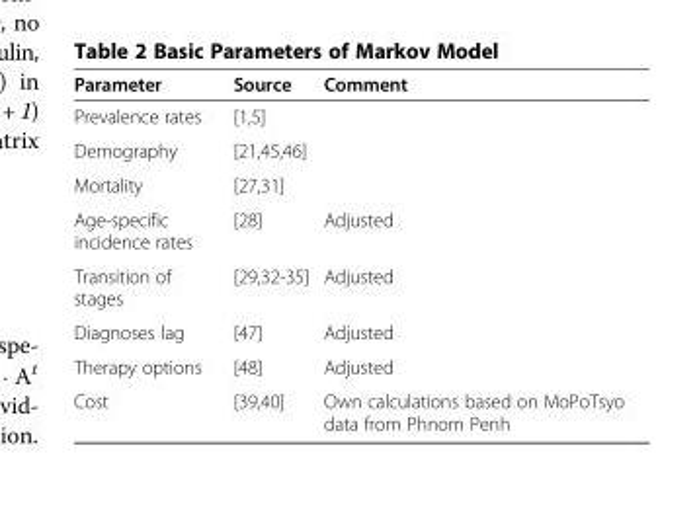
<table><thead><tr><td>Parameter</td><td>Source</td><td>Comment</td></tr></thead><tbody><tr><td>Prevalence rates</td><td>[1,5]</td><td></td></tr><tr><td>Demography</td><td>[21,45,46]</td><td></td></tr><tr><td>Mortality</td><td>[27,31]</td><td></td></tr><tr><td>Age-specific incidence rates</td><td>[28]</td><td>Adjusted</td></tr><tr><td>Transition of stages</td><td>[29,32-35]</td><td>Adjusted</td></tr><tr><td>Diagnoses lag</td><td>[47]</td><td>Adjusted</td></tr><tr><td>Therapy options</td><td>[48]</td><td>Adjusted</td></tr><tr><td>Cost</td><td>[39,40]</td><td>Own calculations based on MoPoTsyo data from Phnom Penh</td></tr></tbody></table>